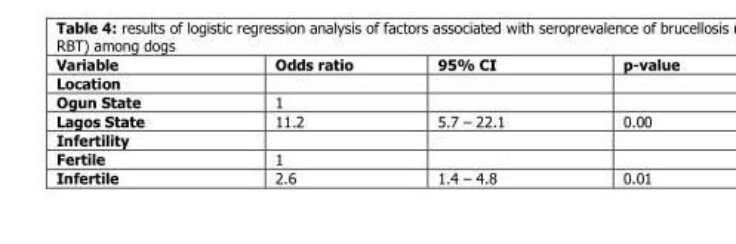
<table><thead><tr><td>Variable</td><td>Odds ratio</td><td>95% CI</td><td>p-value</td></tr></thead><tbody><tr><td colspan="4">Location</td></tr><tr><td>Ogun State</td><td>1</td><td></td><td></td></tr><tr><td>Lagos State</td><td>11.2</td><td>5.7 – 22.1</td><td>0.00</td></tr><tr><td colspan="4">Infertility</td></tr><tr><td colspan="4">Fertile 1</td></tr><tr><td>Infertile</td><td>2.6</td><td>1.4 – 4.8</td><td>0.01</td></tr></tbody></table>